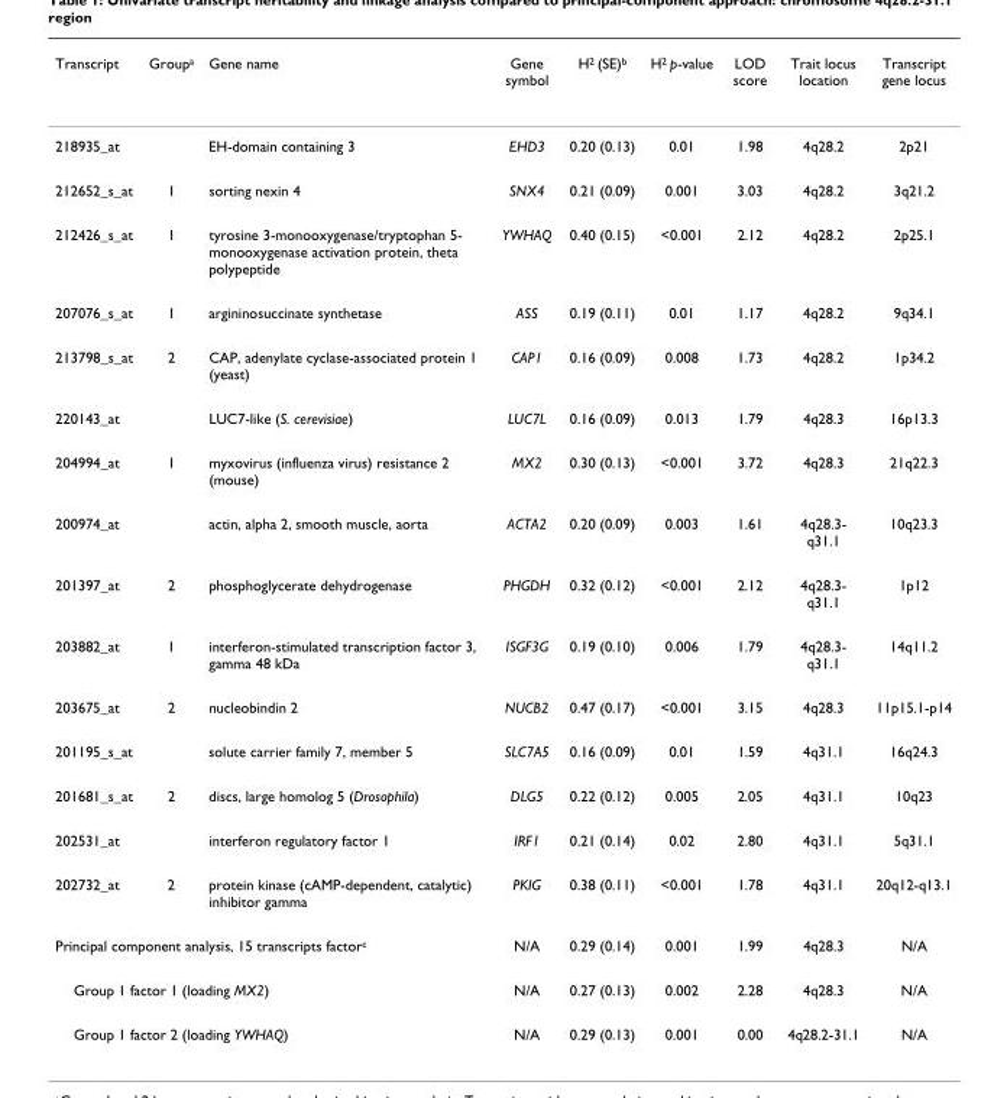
<table><thead><tr><td>Transcript</td><td>Group<sup>a</sup></td><td>Gene name</td><td>Gene symbol</td><td>H<sup>2</sup> (SE)<sup>b</sup></td><td>H<sup>2</sup> p-value</td><td>LOD score</td><td>Trait locus location</td><td>Transcript gene locus</td></tr></thead><tbody><tr><td>218935_at</td><td></td><td>EH-domain containing 3</td><td>EHD3</td><td>0.20 (0.13)</td><td>0.01</td><td>1.98</td><td>4q28.2</td><td>2p21</td></tr><tr><td>212652_s_at</td><td>1</td><td>sorting nexin 4</td><td>SNX4</td><td>0.21 (0.09)</td><td>0.001</td><td>3.03</td><td>4q28.2</td><td>3q21.2</td></tr><tr><td>212426_s_at</td><td>1</td><td>tyrosine 3-monooxygenase/tryptophan 5- monooxygenase activation protein, theta polypeptide</td><td>YWHAQ</td><td>0.40 (0.15)</td><td>&lt;0.001</td><td>2.12</td><td>4q28.2</td><td>2p25.1</td></tr><tr><td>207076_s_at</td><td>1</td><td>argininosuccinate synthetase</td><td>ASS</td><td>0.19 (0.11)</td><td>0.01</td><td>1.17</td><td>4q28.2</td><td>9q34.1</td></tr><tr><td>213798_s_at</td><td>2</td><td>CAP, adenylate cyclase-associated protein 1 (yeast)</td><td>CAP1</td><td>0.16 (0.09)</td><td>0.008</td><td>1.73</td><td>4q28.2</td><td>1p34.2</td></tr><tr><td>220143_at</td><td></td><td>LUC7-like (S. cerevisiae)</td><td>LUC7L</td><td>0.16 (0.09)</td><td>0.013</td><td>1.79</td><td>4q28.3</td><td>16p13.3</td></tr><tr><td>204994_at</td><td>1</td><td>myxovirus (influenza virus) resistance 2 (mouse)</td><td>MX2</td><td>0.30 (0.13)</td><td>&lt;0.001</td><td>3.72</td><td>4q28.3</td><td>21q22.3</td></tr><tr><td>200974_at</td><td></td><td>actin, alpha 2, smooth muscle, aorta</td><td>ACTA2</td><td>0.20 (0.09)</td><td>0.003</td><td>1.61</td><td>4q28.3- q31.1</td><td>10q23.3</td></tr><tr><td>201397_at</td><td>2</td><td>phosphoglycerate dehydrogenase</td><td>PHGDH</td><td>0.32 (0.12)</td><td>&lt;0.001</td><td>2.12</td><td>4q28.3- q31.1</td><td>1p12</td></tr><tr><td>203882_at</td><td>1</td><td>interferon-stimulated transcription factor 3, gamma 48 kDa</td><td>ISGF3G</td><td>0.19 (0.10)</td><td>0.006</td><td>1.79</td><td>4q28.3- q31.1</td><td>14q11.2</td></tr><tr><td>203675_at</td><td>2</td><td>nucleobindin 2</td><td>NUCB2</td><td>0.47 (0.17)</td><td>&lt;0.001</td><td>3.15</td><td>4q28.3</td><td>11p15.1-p14</td></tr><tr><td>201195_s_at</td><td></td><td>solute carrier family 7, member 5</td><td>SLC7A5</td><td>0.16 (0.09)</td><td>0.01</td><td>1.59</td><td>4q31.1</td><td>16q24.3</td></tr><tr><td>201681_s_at</td><td>2</td><td>discs, large homolog 5 (Drosophila)</td><td>DLG5</td><td>0.22 (0.12)</td><td>0.005</td><td>2.05</td><td>4q31.1</td><td>10q23</td></tr><tr><td>202531_at</td><td></td><td>interferon regulatory factor 1</td><td>IRF1</td><td>0.21 (0.14)</td><td>0.02</td><td>2.80</td><td>4q31.1</td><td>5q31.1</td></tr><tr><td>202732_at</td><td>2</td><td>protein kinase (cAMP-dependent, catalytic) inhibitor gamma</td><td>PKIG</td><td>0.38 (0.11)</td><td>&lt;0.001</td><td>1.78</td><td>4q31.1</td><td>20q12-q13.1</td></tr><tr><td colspan="3">Principal component analysis, 15 transcripts factor<sup>c</sup></td><td>N/A</td><td>0.29 (0.14)</td><td>0.001</td><td>1.99</td><td>4q28.3</td><td>N/A</td></tr><tr><td colspan="3">Group 1 factor 1 (loading MX2)</td><td>N/A</td><td>0.27 (0.13)</td><td>0.002</td><td>2.28</td><td>4q28.3</td><td>N/A</td></tr><tr><td colspan="3">Group 1 factor 2 (loading YWHAQ)</td><td>N/A</td><td>0.29 (0.13)</td><td>0.001</td><td>0.00</td><td>4q28.2-31.1</td><td>N/A</td></tr></tbody></table>